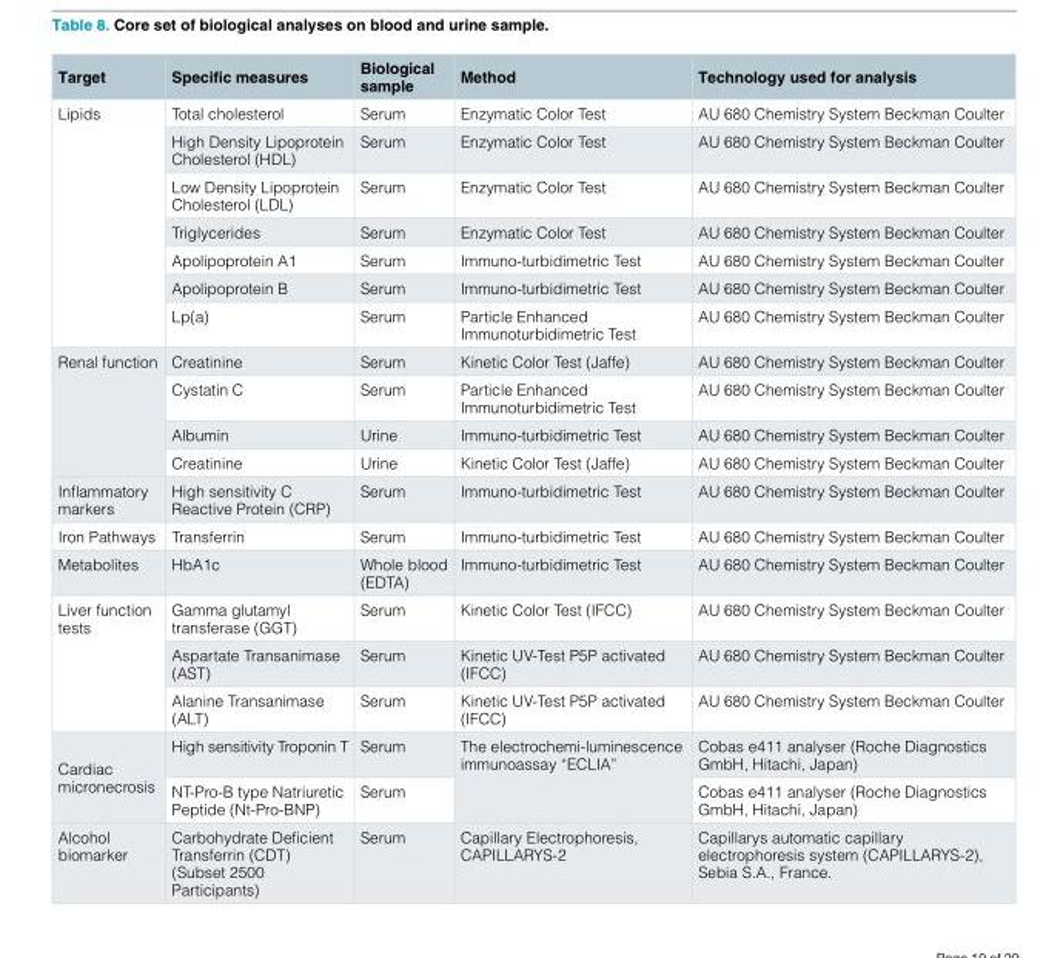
<table><thead><tr><td>Target</td><td>Specific measures</td><td>Biological sample</td><td>Method</td><td>Technology used for analysis</td></tr></thead><tbody><tr><td rowspan="7">Lipids</td><td>Total cholesterol</td><td>Serum</td><td>Enzymatic Color Test</td><td>AU 680 Chemistry System Beckman Coulter</td></tr><tr><td>High Density Lipoprotein Cholesterol (HDL)</td><td>Serum</td><td>Enzymatic Color Test</td><td>AU 680 Chemistry System Beckman Coulter</td></tr><tr><td>Low Density Lipoprotein Cholesterol (LDL)</td><td>Serum</td><td>Enzymatic Color Test</td><td>AU 680 Chemistry System Beckman Coulter</td></tr><tr><td>Triglycerides</td><td>Serum</td><td>Enzymatic Color Test</td><td>AU 680 Chemistry System Beckman Coulter</td></tr><tr><td>Apolipoprotein A1</td><td>Serum</td><td>Immuno-turbidimetric Test</td><td>AU 680 Chemistry System Beckman Coulter</td></tr><tr><td>Apolipoprotein B</td><td>Serum</td><td>Immuno-turbidimetric Test</td><td>AU 680 Chemistry System Beckman Coulter</td></tr><tr><td>Lp(a)</td><td>Serum</td><td>Particle Enhanced Immunoturbidimetric Test</td><td>AU 680 Chemistry System Beckman Coulter</td></tr><tr><td rowspan="4">Renal function</td><td>Creatinine</td><td>Serum</td><td>Kinetic Color Test (Jaffe)</td><td>AU 680 Chemistry System Beckman Coulter</td></tr><tr><td>Cystatin C</td><td>Serum</td><td>Particle Enhanced Immunoturbidimetric Test</td><td>AU 680 Chemistry System Beckman Coulter</td></tr><tr><td>Albumin</td><td>Urine</td><td>Immuno-turbidimetric Test</td><td>AU 680 Chemistry System Beckman Coulter</td></tr><tr><td>Creatinine</td><td>Urine</td><td>Kinetic Color Test (Jaffe)</td><td>AU 680 Chemistry System Beckman Coulter</td></tr><tr><td>Inflammatory markers</td><td>High sensitivity C Reactive Protein (CRP)</td><td>Serum</td><td>Immuno-turbidimetric Test</td><td>AU 680 Chemistry System Beckman Coulter</td></tr><tr><td>Iron Pathways</td><td>Transferrin</td><td>Serum</td><td>Immuno-turbidimetric Test</td><td>AU 680 Chemistry System Beckman Coulter</td></tr><tr><td>Metabolites</td><td>HbA1c</td><td>Whole blood (EDTA)</td><td>Immuno-turbidimetric Test</td><td>AU 680 Chemistry System Beckman Coulter</td></tr><tr><td rowspan="3">Liver function tests</td><td>Gamma glutamyl transferase (GGT)</td><td>Serum</td><td>Kinetic Color Test (IFCC)</td><td>AU 680 Chemistry System Beckman Coulter</td></tr><tr><td>Aspartate Transanimase (AST)</td><td>Serum</td><td>Kinetic UV-Test P5P activated (IFCC)</td><td>AU 680 Chemistry System Beckman Coulter</td></tr><tr><td>Alanine Transanimase (ALT)</td><td>Serum</td><td>Kinetic UV-Test P5P activated (IFCC)</td><td>AU 680 Chemistry System Beckman Coulter</td></tr><tr><td rowspan="2">Cardiac micronecrosis</td><td>High sensitivity Troponin T</td><td>Serum</td><td rowspan="2">The electrochemi-luminescence immunoassay “ECLIA”</td><td>Cobas e411 analyser (Roche Diagnostics GmbH, Hitachi, Japan)</td></tr><tr><td>NT-Pro-B type Natriuretic Peptide (Nt-Pro-BNP)</td><td>Serum</td><td>Cobas e411 analyser (Roche Diagnostics GmbH, Hitachi, Japan)</td></tr><tr><td>Alcohol biomarker</td><td>Carbohydrate Deficient Transferrin (CDT) (Subset 2500 Participants)</td><td>Serum</td><td>Capillary Electrophoresis, CAPILLARYS-2</td><td>Capillarys automatic capillary electrophoresis system (CAPILLARYS-2), Sebia S.A., France.</td></tr></tbody></table>